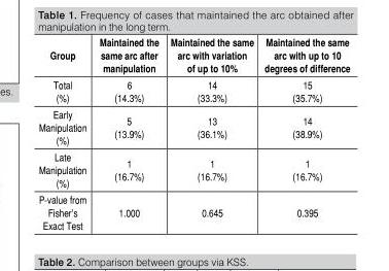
<table><thead><tr><td>Group</td><td>Maintained the same arc after manipulation</td><td>Maintained the same arc with variation of up to 10%</td><td>Maintained the same arc with up to 10 degrees of difference</td></tr></thead><tbody><tr><td>Total (%)</td><td>6 (14.3%)</td><td>14 (33.3%)</td><td>15 (35.7%)</td></tr><tr><td>Early Manipulation (%)</td><td>5 (13.9%)</td><td>13 (36.1%)</td><td>14 (38.9%)</td></tr><tr><td>Late Manipulation (%)</td><td>1 (16.7%)</td><td>1 (16.7%)</td><td>1 (16.7%)</td></tr><tr><td>P-value from Fisher&#x27;s Exact Test</td><td>1.000</td><td>0.645</td><td>0.395</td></tr></tbody></table>